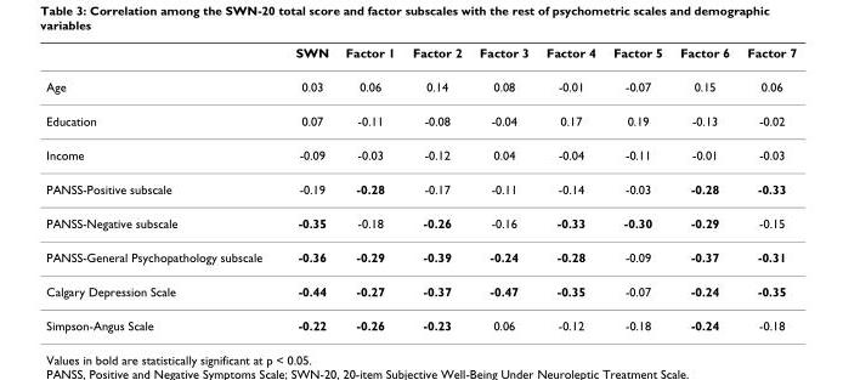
<table><thead><tr><td></td><td>SWN</td><td>Factor 1</td><td>Factor 2</td><td>Factor 3</td><td>Factor 4</td><td>Factor 5</td><td>Factor 6</td><td>Factor 7</td></tr></thead><tbody><tr><td>Age</td><td>0.03</td><td>0.06</td><td>0.14</td><td>0.08</td><td>-0.01</td><td>-0.07</td><td>0.15</td><td>0.06</td></tr><tr><td>Education</td><td>0.07</td><td>-0.11</td><td>-0.08</td><td>-0.04</td><td>0.17</td><td>0.19</td><td>-0.13</td><td>-0.02</td></tr><tr><td>Income</td><td>-0.09</td><td>-0.03</td><td>-0.12</td><td>0.04</td><td>-0.04</td><td>-0.11</td><td>-0.01</td><td>-0.03</td></tr><tr><td>PANSS-Positive subscale</td><td>-0.19</td><td>-0.28</td><td>-0.17</td><td>-0.11</td><td>-0.14</td><td>-0.03</td><td>-0.28</td><td>-0.33</td></tr><tr><td>PANSS-Negative subscale</td><td>-0.35</td><td>-0.18</td><td>-0.26</td><td>-0.16</td><td>-0.33</td><td>-0.30</td><td>-0.29</td><td>-0.15</td></tr><tr><td>PANSS-General Psychopathology subscale</td><td>-0.36</td><td>-0.29</td><td>-0.39</td><td>-0.24</td><td>-0.28</td><td>-0.09</td><td>-0.37</td><td>-0.31</td></tr><tr><td>Calgary Depression Scale</td><td>-0.44</td><td>-0.27</td><td>-0.37</td><td>-0.47</td><td>-0.35</td><td>-0.07</td><td>-0.24</td><td>-0.35</td></tr><tr><td>Simpson-Angus Scale</td><td>-0.22</td><td>-0.26</td><td>-0.23</td><td>0.06</td><td>-0.12</td><td>-0.18</td><td>-0.24</td><td>-0.18</td></tr></tbody></table>